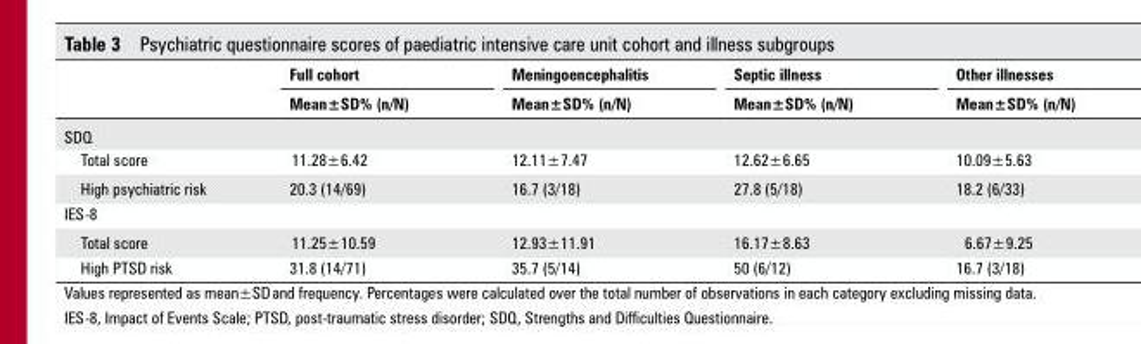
<table><thead><tr><td rowspan="2"></td><td rowspan="2">Full cohort Mean±sd% (n/n)</td><td rowspan="2">Meningoencephalitis Mean±sd% (n/n)</td><td rowspan="2">septic illness Mean±sd% (n/n)</td><td rowspan="2">Other illnesses Mean±sd% (n/n)</td></tr><tr></tr></thead><tbody><tr><td colspan="5">SDQ</td></tr><tr><td>Total score</td><td>11.28±6.42</td><td>12.11±7.47</td><td>12.62±6.65</td><td>10.09±5.63</td></tr><tr><td>High psychiatric risk</td><td>20.3 (14/69)</td><td>16.7 (3/18)</td><td>27.8 (5/18)</td><td>18.2 (6/33)</td></tr><tr><td colspan="5">IES-8</td></tr><tr><td>Total score</td><td>11.25±10.59</td><td>12.93±11.91</td><td>16.17±8.63</td><td>6.67±9.25</td></tr><tr><td>High PTSD risk</td><td>31.8 (14/71)</td><td>35.7 (5/14)</td><td>50 (6/12)</td><td>16.7 (3/18)</td></tr></tbody></table>